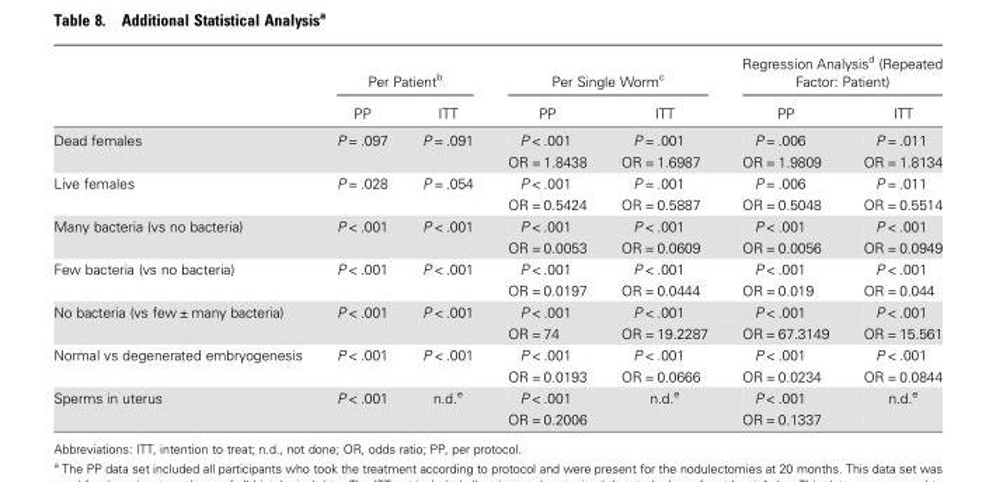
<table><thead><tr><td rowspan="2"></td><td colspan="2">Per Patient<sup>b</sup></td><td colspan="2">Per Single Worm<sup>c</sup></td><td colspan="2">Regression Analysis<sup>d</sup> (Repeated Factor: Patient)</td></tr><tr><td>PP</td><td>ITT</td><td>PP</td><td>ITT</td><td>PP</td><td>ITT</td></tr></thead><tbody><tr><td rowspan="2">Dead females</td><td rowspan="2">P = .097</td><td rowspan="2">P = .091</td><td>P &lt; .001</td><td>P = .001</td><td>P = .006</td><td>P = .011</td></tr><tr><td>OR = 1.8438</td><td>OR = 1.6987</td><td>OR = 1.9809</td><td>OR = 1.8134</td></tr><tr><td rowspan="2">Live females</td><td rowspan="2">P = .028</td><td rowspan="2">P = .054</td><td>P &lt; .001</td><td>P = .001</td><td>P = .006</td><td>P = .011</td></tr><tr><td>OR = 0.5424</td><td>OR = 0.5887</td><td>OR = 0.5048</td><td>OR = 0.5514</td></tr><tr><td rowspan="2">Many bacteria (vs no bacteria)</td><td rowspan="2">P &lt; .001</td><td rowspan="2">P &lt; .001</td><td>P &lt; .001</td><td>P &lt; .001</td><td>P &lt; .001</td><td>P &lt; .001</td></tr><tr><td>OR = 0.0053</td><td>OR = 0.0609</td><td>OR = 0.0056</td><td>OR = 0.0949</td></tr><tr><td rowspan="2">Few bacteria (vs no bacteria)</td><td rowspan="2">P &lt; .001</td><td rowspan="2">P &lt; .001</td><td>P &lt; .001</td><td>P &lt; .001</td><td>P &lt; .001</td><td>P &lt; .001</td></tr><tr><td>OR = 0.0197</td><td>OR = 0.0444</td><td>OR = 0.019</td><td>OR = 0.044</td></tr><tr><td rowspan="2">No bacteria (vs few ± many bacteria)</td><td rowspan="2">P &lt; .001</td><td rowspan="2">P &lt; .001</td><td>P &lt; .001</td><td>P &lt; .001</td><td>P &lt; .001</td><td>P &lt; .001</td></tr><tr><td>OR = 74</td><td>OR = 19.2287</td><td>OR = 67.3149</td><td>OR = 15.561</td></tr><tr><td rowspan="2">Normal vs degenerated embryogenesis</td><td rowspan="2">P &lt; .001</td><td rowspan="2">P &lt; .001</td><td>P &lt; .001</td><td>P &lt; .001</td><td>P &lt; .001</td><td>P &lt; .001</td></tr><tr><td>OR = 0.0193</td><td>OR = 0.0666</td><td>OR = 0.0234</td><td>OR = 0.0844</td></tr><tr><td rowspan="2">Sperms in uterus</td><td rowspan="2">P &lt; .001</td><td rowspan="2">n.d.<sup>e</sup></td><td>P &lt; .001</td><td>n.d.<sup>e</sup></td><td>P &lt; .001</td><td>n.d.<sup>e</sup></td></tr><tr><td>OR = 0.2006</td><td></td><td>OR = 0.1337</td><td></td></tr></tbody></table>